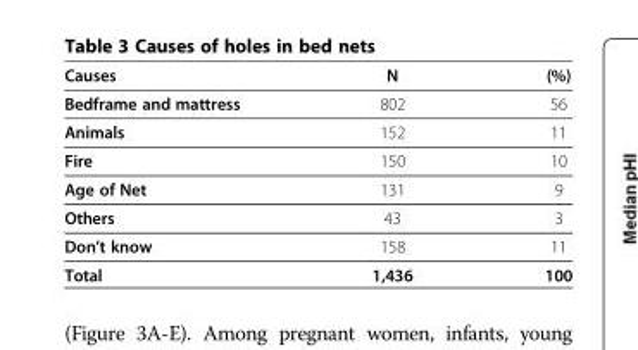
<table><thead><tr><td>Causes</td><td>N</td><td>(%)</td></tr></thead><tbody><tr><td>Bedframe and mattress</td><td>802</td><td>56</td></tr><tr><td>Animals</td><td>152</td><td>11</td></tr><tr><td>Fire</td><td>150</td><td>10</td></tr><tr><td>Age of Net</td><td>131</td><td>9</td></tr><tr><td>Others</td><td>43</td><td>3</td></tr><tr><td>Don’t know</td><td>158</td><td>11</td></tr><tr><td>Total</td><td>1,436</td><td>100</td></tr></tbody></table>